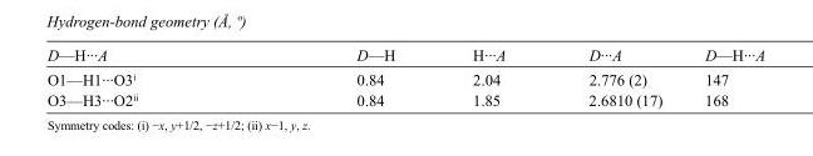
<table><tbody><tr><td>D—H···A</td><td>D—H</td><td>H···A</td><td>D···A</td><td>D—H···A</td></tr><tr><td>O1—H1···O3<sup>i</sup></td><td>0.84</td><td>2.04</td><td>2.776 (2)</td><td>147</td></tr><tr><td>O3—H3···O2<sup>ii</sup></td><td>0.84</td><td>1.85</td><td>2.6810 (17)</td><td>168</td></tr></tbody></table>